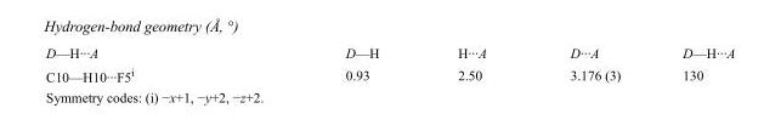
<table><tbody><tr><td>D—H···A</td><td>D—H</td><td>H···A</td><td>D···A</td><td>D—H···A</td></tr><tr><td>C10—H10···F5<sup>i</sup></td><td>0.93</td><td>2.50</td><td>3.176 (3)</td><td>130</td></tr></tbody></table>